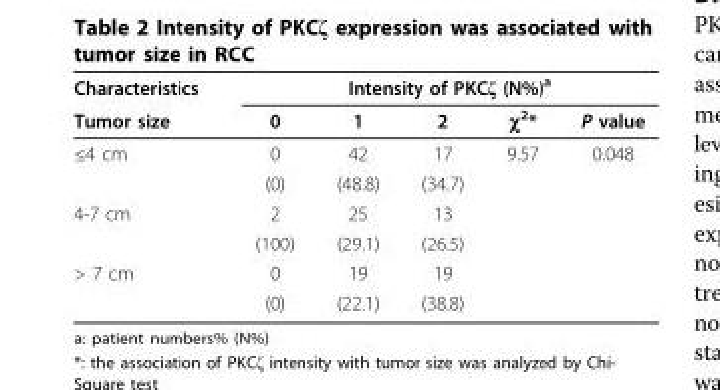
<table><thead><tr><td rowspan="2">Characteristics Tumor size</td><td colspan="5">Intensity of PKCζ (N%)<sup>a</sup></td></tr><tr><td>0</td><td>1</td><td>2</td><td>χ<sup>2</sup>*</td><td>P value</td></tr></thead><tbody><tr><td rowspan="2">≤4 cm</td><td>0</td><td>42</td><td>17</td><td>9.57</td><td>0.048</td></tr><tr><td>(0)</td><td>(48.8)</td><td>(34.7)</td><td></td><td></td></tr><tr><td rowspan="2">4-7 cm</td><td>2</td><td>25</td><td>13</td><td></td><td></td></tr><tr><td>(100)</td><td>(29.1)</td><td>(26.5)</td><td></td><td></td></tr><tr><td rowspan="2">&gt; 7 cm</td><td>0</td><td>19</td><td>19</td><td></td><td></td></tr><tr><td>(0)</td><td>(22.1)</td><td>(38.8)</td><td></td><td></td></tr></tbody></table>